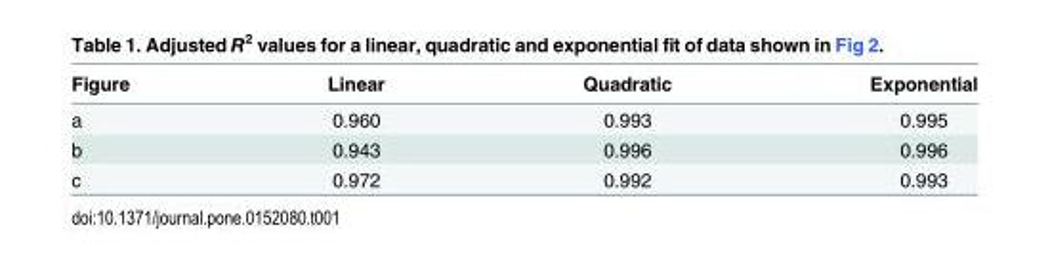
<table><thead><tr><td>Figure</td><td>Linear</td><td>Quadratic</td><td>Exponential</td></tr></thead><tbody><tr><td>a</td><td>0.960</td><td>0.993</td><td>0.995</td></tr><tr><td>b</td><td>0.943</td><td>0.996</td><td>0.996</td></tr><tr><td>c</td><td>0.972</td><td>0.992</td><td>0.993</td></tr></tbody></table>